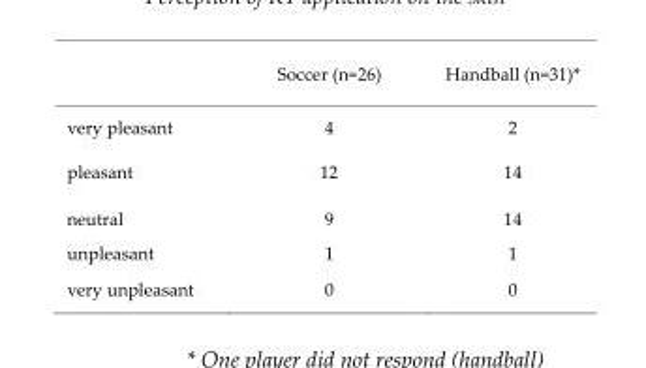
<table><thead><tr><td></td><td>Soccer (n=26)</td><td>Handball (n=31)*</td></tr></thead><tbody><tr><td>very pleasant</td><td>4</td><td>2</td></tr><tr><td>pleasant</td><td>12</td><td>14</td></tr><tr><td>neutral</td><td>9</td><td>14</td></tr><tr><td>unpleasant</td><td>1</td><td>1</td></tr><tr><td>very unpleasant</td><td>0</td><td>0</td></tr></tbody></table>